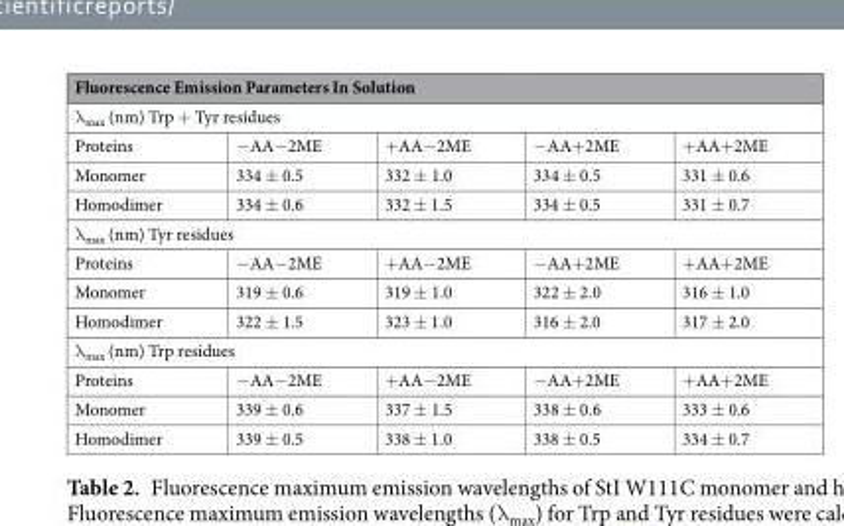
<table><thead><tr><td rowspan="2" colspan="5">Fluorescence Emission Parameters In Solution λ<sub>max</sub> (nm) Trp + Tyr residues</td></tr><tr></tr><tr><td>Proteins</td><td>−AA−2ME</td><td>+AA−2ME</td><td>−AA+2ME</td><td>+AA+2ME</td></tr></thead><tbody><tr><td>Monomer</td><td>334 ± 0.5</td><td>332 ± 1.0</td><td>334 ± 0.5</td><td>331 ± 0.6</td></tr><tr><td>Homodimer</td><td>334 ± 0.6</td><td>332 ± 1.5</td><td>334 ± 0.5</td><td>331 ± 0.7</td></tr><tr><td colspan="5">λ<sub>max</sub> (nm) Tyr residues</td></tr><tr><td>Proteins</td><td>−AA−2ME</td><td>+AA−2ME</td><td>−AA+2ME</td><td>+AA+2ME</td></tr><tr><td>Monomer</td><td>319 ± 0.6</td><td>319 ± 1.0</td><td>322 ± 2.0</td><td>316 ± 1.0</td></tr><tr><td>Homodimer</td><td>322 ± 1.5</td><td>323 ± 1.0</td><td>316 ± 2.0</td><td>317 ± 2.0</td></tr><tr><td colspan="5">λ<sub>max</sub> (nm) Trp residues</td></tr><tr><td>Proteins</td><td>−AA−2ME</td><td>+AA−2ME</td><td>−AA+2ME</td><td>+AA+2ME</td></tr><tr><td>Monomer</td><td>339 ± 0.6</td><td>337 ± 1.5</td><td>338 ± 0.6</td><td>333 ± 0.6</td></tr><tr><td>Homodimer</td><td>339 ± 0.5</td><td>338 ± 1.0</td><td>338 ± 0.5</td><td>334 ± 0.7</td></tr></tbody></table>